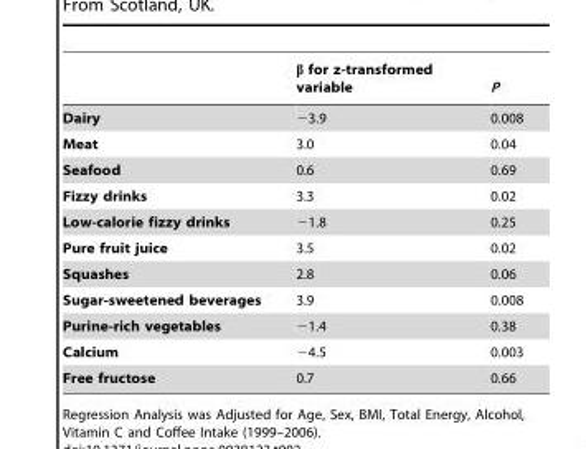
<table><thead><tr><td></td><td>β for z-transformed variable</td><td>P</td></tr></thead><tbody><tr><td>Dairy</td><td>−3.9</td><td>0.008</td></tr><tr><td>Meat</td><td>3.0</td><td>0.04</td></tr><tr><td>Seafood</td><td>0.6</td><td>0.69</td></tr><tr><td>Fizzy drinks</td><td>3.3</td><td>0.02</td></tr><tr><td>Low-calorie fizzy drinks</td><td>−1.8</td><td>0.25</td></tr><tr><td>Pure fruit juice</td><td>3.5</td><td>0.02</td></tr><tr><td>Squashes</td><td>2.8</td><td>0.06</td></tr><tr><td>Sugar-sweetened beverages</td><td>3.9</td><td>0.008</td></tr><tr><td>Purine-rich vegetables</td><td>−1.4</td><td>0.38</td></tr><tr><td>Calcium</td><td>−4.5</td><td>0.003</td></tr><tr><td>Free fructose</td><td>0.7</td><td>0.66</td></tr></tbody></table>